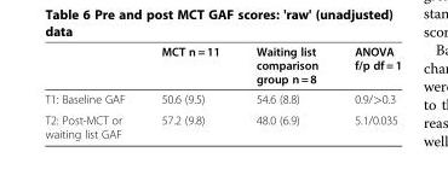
<table><thead><tr><td></td><td>MCT n = 11</td><td>Waiting list comparison group n = 8</td><td>ANOVA f/p df = 1</td></tr></thead><tbody><tr><td>T1: Baseline GAF</td><td>50.6 (9.5)</td><td>54.6 (8.8)</td><td>0.9/&gt;0.3</td></tr><tr><td>T2: Post-MCT or waiting list GAF</td><td>57.2 (9.8)</td><td>48.0 (6.9)</td><td>5.1/0.035</td></tr></tbody></table>